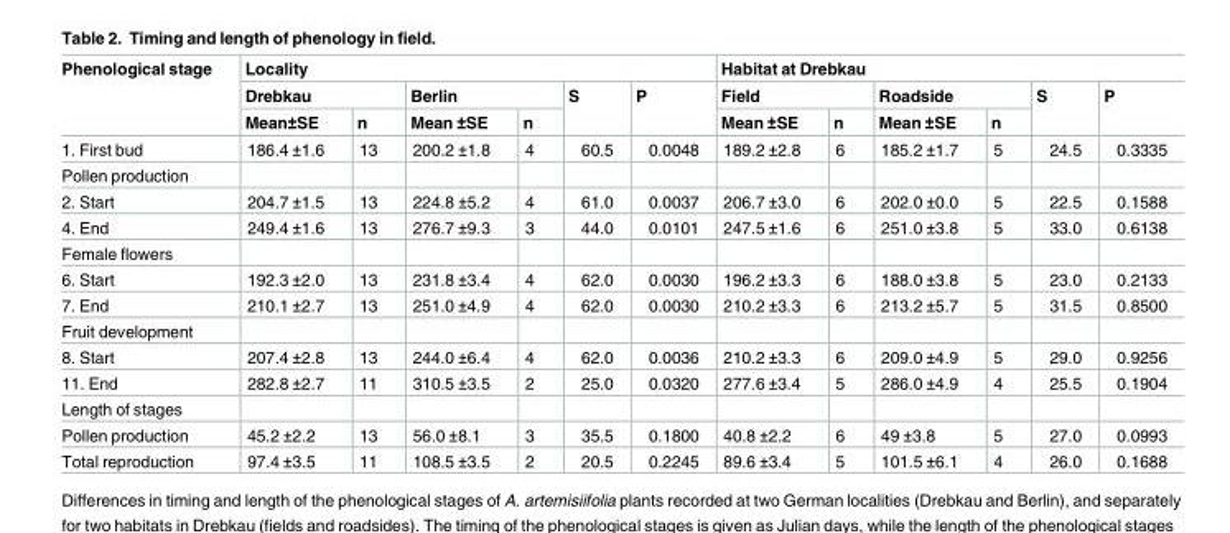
<table><thead><tr><td rowspan="3">Phenological stage</td><td colspan="6">Locality</td><td colspan="6">Habitat at Drebkau</td></tr><tr><td colspan="2">Drebkau</td><td colspan="2">Berlin</td><td rowspan="2">S</td><td rowspan="2">P</td><td colspan="2">Field</td><td colspan="2">Roadside</td><td rowspan="2">S</td><td rowspan="2">P</td></tr><tr><td>Mean±SE</td><td>n</td><td>Mean ±SE</td><td>n</td><td>Mean ±SE</td><td>n</td><td>Mean ±SE</td><td>n</td></tr></thead><tbody><tr><td>1. First bud</td><td>186.4 ±1.6</td><td>13</td><td>200.2 ±1.8</td><td>4</td><td>60.5</td><td>0.0048</td><td>189.2 ±2.8</td><td>6</td><td>185.2 ±1.7</td><td>5</td><td>24.5</td><td>0.3335</td></tr><tr><td colspan="13">Pollen production</td></tr><tr><td>2. Start</td><td>204.7 ±1.5</td><td>13</td><td>224.8 ±5.2</td><td>4</td><td>61.0</td><td>0.0037</td><td>206.7 ±3.0</td><td>6</td><td>202.0 ±0.0</td><td>5</td><td>22.5</td><td>0.1588</td></tr><tr><td>4. End</td><td>249.4 ±1.6</td><td>13</td><td>276.7 ±9.3</td><td>3</td><td>44.0</td><td>0.0101</td><td>247.5 ±1.6</td><td>6</td><td>251.0 ±3.8</td><td>5</td><td>33.0</td><td>0.6138</td></tr><tr><td colspan="13">Female flowers</td></tr><tr><td>6. Start</td><td>192.3 ±2.0</td><td>13</td><td>231.8 ±3.4</td><td>4</td><td>62.0</td><td>0.0030</td><td>196.2 ±3.3</td><td>6</td><td>188.0 ±3.8</td><td>5</td><td>23.0</td><td>0.2133</td></tr><tr><td>7. End</td><td>210.1 ±2.7</td><td>13</td><td>251.0 ±4.9</td><td>4</td><td>62.0</td><td>0.0030</td><td>210.2 ±3.3</td><td>6</td><td>213.2 ±5.7</td><td>5</td><td>31.5</td><td>0.8500</td></tr><tr><td colspan="13">Fruit development</td></tr><tr><td>8. Start</td><td>207.4 ±2.8</td><td>13</td><td>244.0 ±6.4</td><td>4</td><td>62.0</td><td>0.0036</td><td>210.2 ±3.3</td><td>6</td><td>209.0 ±4.9</td><td>5</td><td>29.0</td><td>0.9256</td></tr><tr><td>11. End</td><td>282.8 ±2.7</td><td>11</td><td>310.5 ±3.5</td><td>2</td><td>25.0</td><td>0.0320</td><td>277.6 ±3.4</td><td>5</td><td>286.0 ±4.9</td><td>4</td><td>25.5</td><td>0.1904</td></tr><tr><td colspan="13">Length of stages</td></tr><tr><td>Pollen production</td><td>45.2 ±2.2</td><td>13</td><td>56.0 ±8.1</td><td>3</td><td>35.5</td><td>0.1800</td><td>40.8 ±2.2</td><td>6</td><td>49 ±3.8</td><td>5</td><td>27.0</td><td>0.0993</td></tr><tr><td>Total reproduction</td><td>97.4 ±3.5</td><td>11</td><td>108.5 ±3.5</td><td>2</td><td>20.5</td><td>0.2245</td><td>89.6 ±3.4</td><td>5</td><td>101.5 ±6.1</td><td>4</td><td>26.0</td><td>0.1688</td></tr></tbody></table>